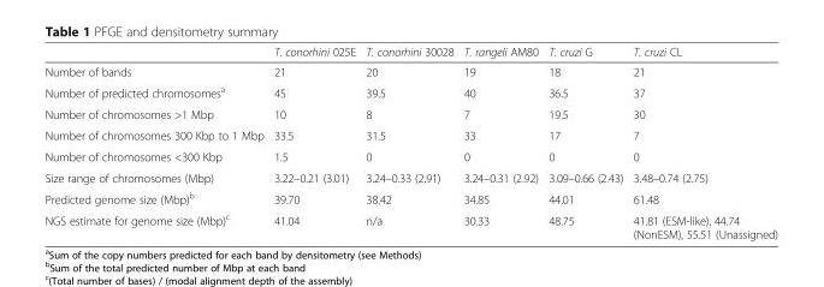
<table><thead><tr><td></td><td>T. conorhini 025E</td><td>T. conorhini 30028</td><td>T. rangeli AM80</td><td>T. cruzi G</td><td>T. cruzi CL</td></tr></thead><tbody><tr><td>Number of bands</td><td>21</td><td>20</td><td>19</td><td>18</td><td>21</td></tr><tr><td>Number of predicted chromosomes<sup>a</sup></td><td>45</td><td>39.5</td><td>40</td><td>36.5</td><td>37</td></tr><tr><td>Number of chromosomes &gt;1 Mbp</td><td>10</td><td>8</td><td>7</td><td>19.5</td><td>30</td></tr><tr><td>Number of chromosomes 300 Kbp to 1 Mbp</td><td>33.5</td><td>31.5</td><td>33</td><td>17</td><td>7</td></tr><tr><td>Number of chromosomes &lt;300 Kbp</td><td>1.5</td><td>0</td><td>0</td><td>0</td><td>0</td></tr><tr><td>Size range of chromosomes (Mbp)</td><td>3.22–0.21 (3.01)</td><td>3.24–0.33 (2.91)</td><td>3.24–0.31 (2.92)</td><td>3.09–0.66 (2.43)</td><td>3.48–0.74 (2.75)</td></tr><tr><td>Predicted genome size (Mbp)<sup>b</sup></td><td>39.70</td><td>38.42</td><td>34.85</td><td>44.01</td><td>61.48</td></tr><tr><td>NGS estimate for genome size (Mbp)<sup>c</sup></td><td>41.04</td><td>n/a</td><td>30.33</td><td>48.75</td><td>41.81 (ESM-like), 44.74 (NonESM), 55.51 (Unassigned)</td></tr></tbody></table>